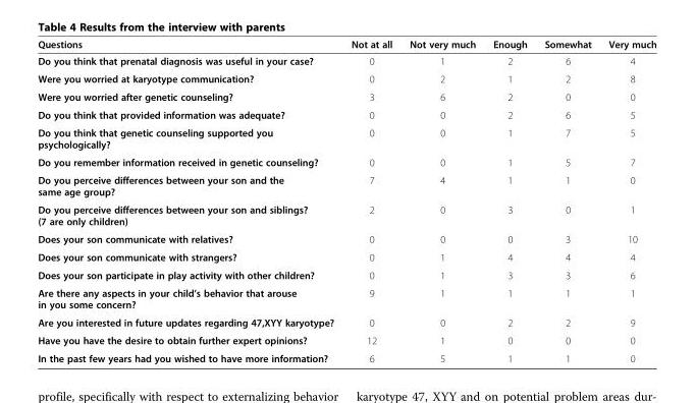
<table><thead><tr><td>Questions</td><td>Not at all</td><td>Not very much</td><td>Enough</td><td>Somewhat</td><td>Very much</td></tr></thead><tbody><tr><td>Do you think that prenatal diagnosis was useful in your case?</td><td>0</td><td>1</td><td>2</td><td>6</td><td>4</td></tr><tr><td>Were you worried at karyotype communication?</td><td>0</td><td>2</td><td>1</td><td>2</td><td>8</td></tr><tr><td>Were you worried after genetic counseling?</td><td>3</td><td>6</td><td>2</td><td>0</td><td>0</td></tr><tr><td>Do you think that provided information was adequate?</td><td>0</td><td>0</td><td>2</td><td>6</td><td>5</td></tr><tr><td>Do you think that genetic counseling supported you psychologically?</td><td>0</td><td>0</td><td>1</td><td>7</td><td>5</td></tr><tr><td>Do you remember information received in genetic counseling?</td><td>0</td><td>0</td><td>1</td><td>5</td><td>7</td></tr><tr><td>Do you perceive differences between your son and the same age group?</td><td>7</td><td>4</td><td>1</td><td>1</td><td>0</td></tr><tr><td>Do you perceive differences between your son and siblings? (7 are only children)</td><td>2</td><td>0</td><td>3</td><td>0</td><td>1</td></tr><tr><td>Does your son communicate with relatives?</td><td>0</td><td>0</td><td>0</td><td>3</td><td>10</td></tr><tr><td>Does your son communicate with strangers?</td><td>0</td><td>1</td><td>4</td><td>4</td><td>4</td></tr><tr><td>Does your son participate in play activity with other children?</td><td>0</td><td>1</td><td>3</td><td>3</td><td>6</td></tr><tr><td>Are there any aspects in your child’s behavior that arouse in you some concern?</td><td>9</td><td>1</td><td>1</td><td>1</td><td>1</td></tr><tr><td>Are you interested in future updates regarding 47,XYY karyotype?</td><td>0</td><td>0</td><td>2</td><td>2</td><td>9</td></tr><tr><td>Have you have the desire to obtain further expert opinions?</td><td>12</td><td>1</td><td>0</td><td>0</td><td>0</td></tr><tr><td>In the past few years had you wished to have more information?</td><td>6</td><td>5</td><td>1</td><td>1</td><td>0</td></tr></tbody></table>